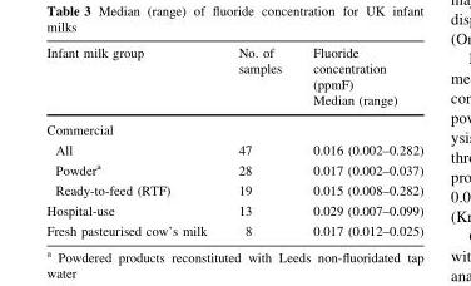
<table><thead><tr><td>Infant milk group</td><td>No. of samples</td><td>Fluoride concentration (ppmF) Median (range)</td></tr></thead><tbody><tr><td colspan="3">Commercial</td></tr><tr><td>All</td><td>47</td><td>0.016 (0.002–0.282)</td></tr><tr><td>Powder<sup>a</sup></td><td>28</td><td>0.017 (0.002–0.037)</td></tr><tr><td>Ready-to-feed (RTF)</td><td>19</td><td>0.015 (0.008–0.282)</td></tr><tr><td>Hospital-use</td><td>13</td><td>0.029 (0.007–0.099)</td></tr><tr><td>Fresh pasteurised cow’s milk</td><td>8</td><td>0.017 (0.012–0.025)</td></tr></tbody></table>